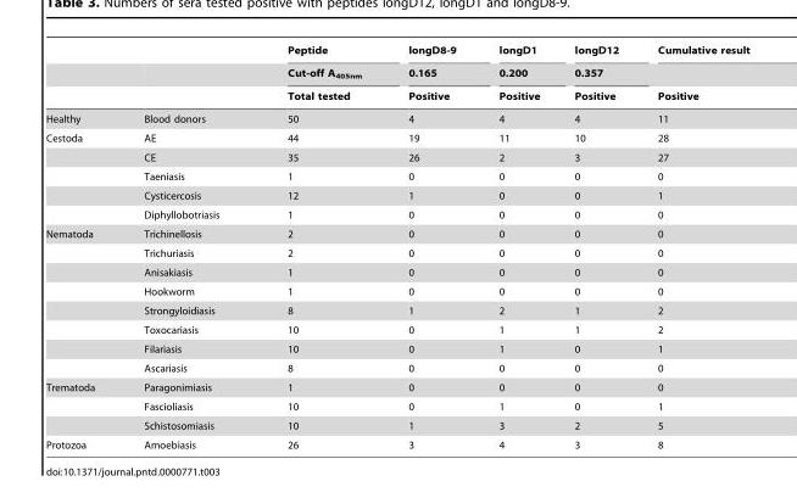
<table><thead><tr><td rowspan="3"></td><td rowspan="3"></td><td rowspan="3">Peptide Cut-off A<sub>405nm</sub> Total tested</td><td rowspan="3">longD8-9 0.165 Positive</td><td rowspan="3">longD1 0.200 Positive</td><td rowspan="3">longD12 0.357 Positive</td><td rowspan="3">Cumulative result Positive</td></tr><tr></tr><tr></tr></thead><tbody><tr><td>Healthy</td><td>Blood donors</td><td>50</td><td>4</td><td>4</td><td>4</td><td>11</td></tr><tr><td rowspan="5">Cestoda</td><td>AE</td><td>44</td><td>19</td><td>11</td><td>10</td><td>28</td></tr><tr><td>CE</td><td>35</td><td>26</td><td>2</td><td>3</td><td>27</td></tr><tr><td>Taeniasis</td><td>1</td><td>0</td><td>0</td><td>0</td><td>0</td></tr><tr><td>Cysticercosis</td><td>12</td><td>1</td><td>0</td><td>0</td><td>1</td></tr><tr><td>Diphyllobotriasis</td><td>1</td><td>0</td><td>0</td><td>0</td><td>0</td></tr><tr><td rowspan="8">Nematoda</td><td>Trichinellosis</td><td>2</td><td>0</td><td>0</td><td>0</td><td>0</td></tr><tr><td>Trichuriasis</td><td>2</td><td>0</td><td>0</td><td>0</td><td>0</td></tr><tr><td>Anisakiasis</td><td>1</td><td>0</td><td>0</td><td>0</td><td>0</td></tr><tr><td>Hookworm</td><td>1</td><td>0</td><td>0</td><td>0</td><td>0</td></tr><tr><td>Strongyloidiasis</td><td>8</td><td>1</td><td>2</td><td>1</td><td>2</td></tr><tr><td>Toxocariasis</td><td>10</td><td>0</td><td>1</td><td>1</td><td>2</td></tr><tr><td>Filariasis</td><td>10</td><td>0</td><td>1</td><td>0</td><td>1</td></tr><tr><td>Ascariasis</td><td>8</td><td>0</td><td>0</td><td>0</td><td>0</td></tr><tr><td rowspan="3">Trematoda</td><td>Paragonimiasis</td><td>1</td><td>0</td><td>0</td><td>0</td><td>0</td></tr><tr><td>Fascioliasis</td><td>10</td><td>0</td><td>1</td><td>0</td><td>1</td></tr><tr><td>Schistosomiasis</td><td>10</td><td>1</td><td>3</td><td>2</td><td>5</td></tr><tr><td>Protozoa</td><td>Amoebiasis</td><td>26</td><td>3</td><td>4</td><td>3</td><td>8</td></tr></tbody></table>